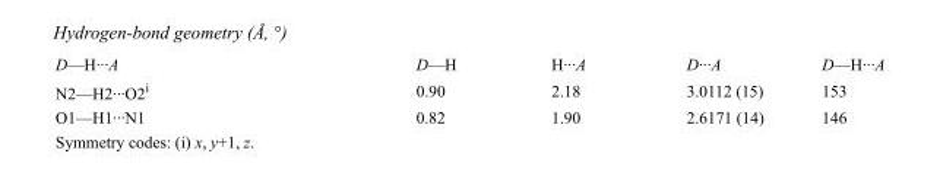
<table><tbody><tr><td>D—H···A</td><td>D—H</td><td>H···A</td><td>D···A</td><td>D—H···A</td></tr><tr><td>N2—H2···O2<sup>i</sup></td><td>0.90</td><td>2.18</td><td>3.0112 (15)</td><td>153</td></tr><tr><td>O1—H1···N1</td><td>0.82</td><td>1.90</td><td>2.6171 (14)</td><td>146</td></tr></tbody></table>